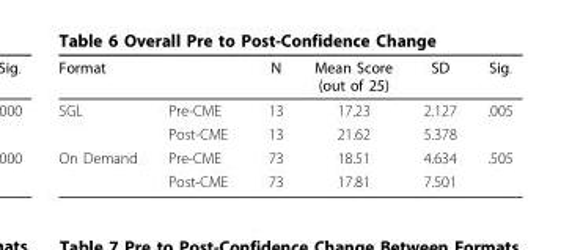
<table><thead><tr><td>Format</td><td></td><td>N</td><td>Mean Score (out of 25)</td><td>SD</td><td>Sig.</td></tr></thead><tbody><tr><td rowspan="2">SGL</td><td>Pre-CME</td><td>13</td><td>17.23</td><td>2.127</td><td>.005</td></tr><tr><td>Post-CME</td><td>13</td><td>21.62</td><td>5.378</td><td></td></tr><tr><td rowspan="2">On Demand</td><td>Pre-CME</td><td>73</td><td>18.51</td><td>4.634</td><td>.505</td></tr><tr><td>Post-CME</td><td>73</td><td>17.81</td><td>7.501</td><td></td></tr></tbody></table>